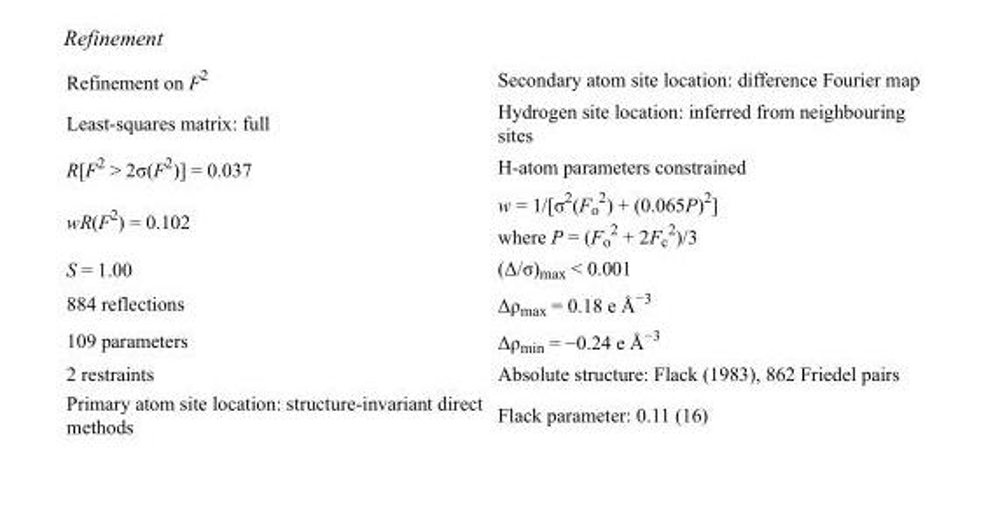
<table><tbody><tr><td>Refinement on F<sup>2</sup></td><td>Secondary atom site location: difference Fourier map</td></tr><tr><td>Least-squares matrix: full</td><td>Hydrogen site location: inferred from neighbouring sites</td></tr><tr><td>R[F<sup>2</sup> &gt; 2σ(F<sup>2</sup>)] = 0.037</td><td>H-atom parameters constrained</td></tr><tr><td>wR(F<sup>2</sup>) = 0.102</td><td>w = 1/[σ<sup>2</sup>(F<sub>o</sub> <sup>2</sup>) + (0.065P)<sup>2</sup>] where P = (F<sub>o</sub> <sup>2</sup> + 2F<sub>c</sub> <sup>2</sup>)/3</td></tr><tr><td>S = 1.00</td><td>(Δ/σ)<sub>max</sub> &lt; 0.001</td></tr><tr><td>884 reflections</td><td>Δρ<sub>max</sub> = 0.18 e Å<sup>−3</sup></td></tr><tr><td>109 parameters</td><td>Δρ<sub>min</sub> = −0.24 e Å<sup>−3</sup></td></tr><tr><td>2 restraints</td><td>Absolute structure: Flack (1983), 862 Friedel pairs</td></tr><tr><td>Primary atom site location: structure-invariant direct methods</td><td>Flack parameter: 0.11 (16)</td></tr></tbody></table>